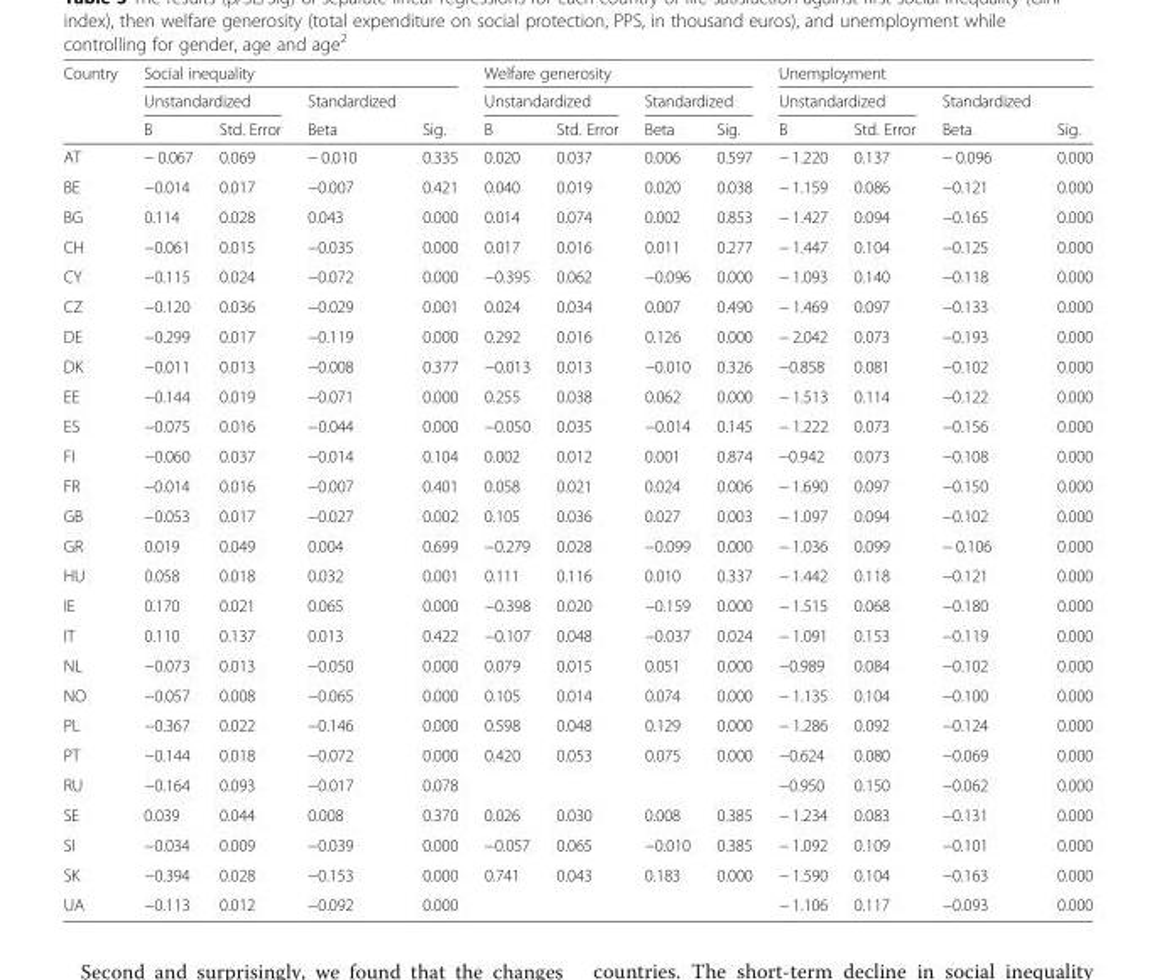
<table><thead><tr><td rowspan="3">Country</td><td colspan="4">Social inequality</td><td colspan="4">Welfare generosity</td><td colspan="4">Unemployment</td></tr><tr><td colspan="2">Unstandardized</td><td rowspan="2">Standardized Beta</td><td rowspan="2">Sig.</td><td colspan="2">Unstandardized</td><td colspan="2">Standardized</td><td colspan="2">Unstandardized</td><td rowspan="2">Standardized Beta</td><td rowspan="2">Sig.</td></tr><tr><td>B</td><td>Std. Error</td><td>B</td><td>Std. Error</td><td>Beta</td><td>Sig.</td><td>B</td><td>Std. Error</td></tr></thead><tbody><tr><td>AT</td><td>− 0.067</td><td>0.069</td><td>− 0.010</td><td>0.335</td><td>0.020</td><td>0.037</td><td>0.006</td><td>0.597</td><td>− 1.220</td><td>0.137</td><td>− 0.096</td><td>0.000</td></tr><tr><td>BE</td><td>−0.014</td><td>0.017</td><td>−0.007</td><td>0.421</td><td>0.040</td><td>0.019</td><td>0.020</td><td>0.038</td><td>− 1.159</td><td>0.086</td><td>−0.121</td><td>0.000</td></tr><tr><td>BG</td><td>0.114</td><td>0.028</td><td>0.043</td><td>0.000</td><td>0.014</td><td>0.074</td><td>0.002</td><td>0.853</td><td>− 1.427</td><td>0.094</td><td>−0.165</td><td>0.000</td></tr><tr><td>CH</td><td>−0.061</td><td>0.015</td><td>−0.035</td><td>0.000</td><td>0.017</td><td>0.016</td><td>0.011</td><td>0.277</td><td>− 1.447</td><td>0.104</td><td>−0.125</td><td>0.000</td></tr><tr><td>CY</td><td>−0.115</td><td>0.024</td><td>−0.072</td><td>0.000</td><td>−0.395</td><td>0.062</td><td>−0.096</td><td>0.000</td><td>− 1.093</td><td>0.140</td><td>−0.118</td><td>0.000</td></tr><tr><td>CZ</td><td>−0.120</td><td>0.036</td><td>−0.029</td><td>0.001</td><td>0.024</td><td>0.034</td><td>0.007</td><td>0.490</td><td>− 1.469</td><td>0.097</td><td>−0.133</td><td>0.000</td></tr><tr><td>DE</td><td>−0.299</td><td>0.017</td><td>−0.119</td><td>0.000</td><td>0.292</td><td>0.016</td><td>0.126</td><td>0.000</td><td>− 2.042</td><td>0.073</td><td>−0.193</td><td>0.000</td></tr><tr><td>DK</td><td>−0.011</td><td>0.013</td><td>−0.008</td><td>0.377</td><td>−0.013</td><td>0.013</td><td>−0.010</td><td>0.326</td><td>−0.858</td><td>0.081</td><td>−0.102</td><td>0.000</td></tr><tr><td>EE</td><td>−0.144</td><td>0.019</td><td>−0.071</td><td>0.000</td><td>0.255</td><td>0.038</td><td>0.062</td><td>0.000</td><td>− 1.513</td><td>0.114</td><td>−0.122</td><td>0.000</td></tr><tr><td>ES</td><td>−0.075</td><td>0.016</td><td>−0.044</td><td>0.000</td><td>−0.050</td><td>0.035</td><td>−0.014</td><td>0.145</td><td>− 1.222</td><td>0.073</td><td>−0.156</td><td>0.000</td></tr><tr><td>FI</td><td>−0.060</td><td>0.037</td><td>−0.014</td><td>0.104</td><td>0.002</td><td>0.012</td><td>0.001</td><td>0.874</td><td>−0.942</td><td>0.073</td><td>−0.108</td><td>0.000</td></tr><tr><td>FR</td><td>−0.014</td><td>0.016</td><td>−0.007</td><td>0.401</td><td>0.058</td><td>0.021</td><td>0.024</td><td>0.006</td><td>− 1.690</td><td>0.097</td><td>−0.150</td><td>0.000</td></tr><tr><td>GB</td><td>−0.053</td><td>0.017</td><td>−0.027</td><td>0.002</td><td>0.105</td><td>0.036</td><td>0.027</td><td>0.003</td><td>− 1.097</td><td>0.094</td><td>−0.102</td><td>0.000</td></tr><tr><td>GR</td><td>0.019</td><td>0.049</td><td>0.004</td><td>0.699</td><td>−0.279</td><td>0.028</td><td>−0.099</td><td>0.000</td><td>− 1.036</td><td>0.099</td><td>− 0.106</td><td>0.000</td></tr><tr><td>HU</td><td>0.058</td><td>0.018</td><td>0.032</td><td>0.001</td><td>0.111</td><td>0.116</td><td>0.010</td><td>0.337</td><td>− 1.442</td><td>0.118</td><td>−0.121</td><td>0.000</td></tr><tr><td>IE</td><td>0.170</td><td>0.021</td><td>0.065</td><td>0.000</td><td>−0.398</td><td>0.020</td><td>−0.159</td><td>0.000</td><td>− 1.515</td><td>0.068</td><td>−0.180</td><td>0.000</td></tr><tr><td>IT</td><td>0.110</td><td>0.137</td><td>0.013</td><td>0.422</td><td>−0.107</td><td>0.048</td><td>−0.037</td><td>0.024</td><td>− 1.091</td><td>0.153</td><td>−0.119</td><td>0.000</td></tr><tr><td>NL</td><td>−0.073</td><td>0.013</td><td>−0.050</td><td>0.000</td><td>0.079</td><td>0.015</td><td>0.051</td><td>0.000</td><td>−0.989</td><td>0.084</td><td>−0.102</td><td>0.000</td></tr><tr><td>NO</td><td>−0.057</td><td>0.008</td><td>−0.065</td><td>0.000</td><td>0.105</td><td>0.014</td><td>0.074</td><td>0.000</td><td>− 1.135</td><td>0.104</td><td>−0.100</td><td>0.000</td></tr><tr><td>PL</td><td>−0.367</td><td>0.022</td><td>−0.146</td><td>0.000</td><td>0.598</td><td>0.048</td><td>0.129</td><td>0.000</td><td>− 1.286</td><td>0.092</td><td>−0.124</td><td>0.000</td></tr><tr><td>PT</td><td>−0.144</td><td>0.018</td><td>−0.072</td><td>0.000</td><td>0.420</td><td>0.053</td><td>0.075</td><td>0.000</td><td>−0.624</td><td>0.080</td><td>−0.069</td><td>0.000</td></tr><tr><td>RU</td><td>−0.164</td><td>0.093</td><td>−0.017</td><td>0.078</td><td></td><td></td><td></td><td></td><td>−0.950</td><td>0.150</td><td>−0.062</td><td>0.000</td></tr><tr><td>SE</td><td>0.039</td><td>0.044</td><td>0.008</td><td>0.370</td><td>0.026</td><td>0.030</td><td>0.008</td><td>0.385</td><td>− 1.234</td><td>0.083</td><td>−0.131</td><td>0.000</td></tr><tr><td>SI</td><td>−0.034</td><td>0.009</td><td>−0.039</td><td>0.000</td><td>−0.057</td><td>0.065</td><td>−0.010</td><td>0.385</td><td>− 1.092</td><td>0.109</td><td>−0.101</td><td>0.000</td></tr><tr><td>SK</td><td>−0.394</td><td>0.028</td><td>−0.153</td><td>0.000</td><td>0.741</td><td>0.043</td><td>0.183</td><td>0.000</td><td>− 1.590</td><td>0.104</td><td>−0.163</td><td>0.000</td></tr><tr><td>UA</td><td>−0.113</td><td>0.012</td><td>−0.092</td><td>0.000</td><td></td><td></td><td></td><td></td><td>− 1.106</td><td>0.117</td><td>−0.093</td><td>0.000</td></tr></tbody></table>